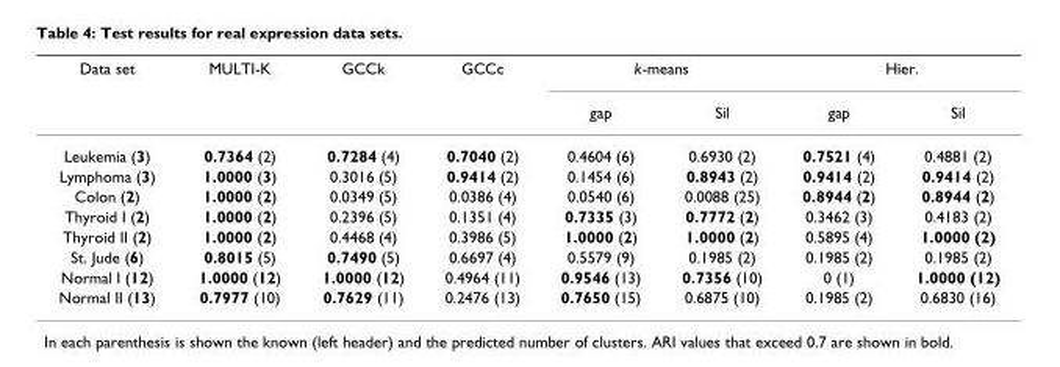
<table><thead><tr><td rowspan="2">Data set</td><td rowspan="2">MULTI-K</td><td rowspan="2">GCCk</td><td rowspan="2">GCCc</td><td colspan="2">k-means</td><td colspan="2">Hier.</td></tr><tr><td>gap</td><td>Sil</td><td>gap</td><td>Sil</td></tr></thead><tbody><tr><td>Leukemia (3)</td><td>0.7364 (2)</td><td>0.7284 (4)</td><td>0.7040 (2)</td><td>0.4604 (6)</td><td>0.6930 (2)</td><td>0.7521 (4)</td><td>0.4881 (2)</td></tr><tr><td>Lymphoma (3)</td><td>1.0000 (3)</td><td>0.3016 (5)</td><td>0.9414 (2)</td><td>0.1454 (6)</td><td>0.8943 (2)</td><td>0.9414 (2)</td><td>0.9414 (2)</td></tr><tr><td>Colon (2)</td><td>1.0000 (2)</td><td>0.0349 (5)</td><td>0.0386 (4)</td><td>0.0540 (6)</td><td>0.0088 (25)</td><td>0.8944 (2)</td><td>0.8944 (2)</td></tr><tr><td>Thyroid I (2)</td><td>1.0000 (2)</td><td>0.2396 (5)</td><td>0.1351 (4)</td><td>0.7335 (3)</td><td>0.7772 (2)</td><td>0.3462 (3)</td><td>0.4183 (2)</td></tr><tr><td>Thyroid II (2)</td><td>1.0000 (2)</td><td>0.4468 (4)</td><td>0.3986 (5)</td><td>1.0000 (2)</td><td>1.0000 (2)</td><td>0.5895 (4)</td><td>1.0000 (2)</td></tr><tr><td>St. Jude (6)</td><td>0.8015 (5)</td><td>0.7490 (5)</td><td>0.6697 (4)</td><td>0.5579 (9)</td><td>0.1985 (2)</td><td>0.1985 (2)</td><td>0.1985 (2)</td></tr><tr><td>Normal I (12)</td><td>1.0000 (12)</td><td>1.0000 (12)</td><td>0.4964 (11)</td><td>0.9546 (13)</td><td>0.7356 (10)</td><td>0 (1)</td><td>1.0000 (12)</td></tr><tr><td>Normal II (13)</td><td>0.7977 (10)</td><td>0.7629 (11)</td><td>0.2476 (13)</td><td>0.7650 (15)</td><td>0.6875 (10)</td><td>0.1985 (2)</td><td>0.6830 (16)</td></tr></tbody></table>